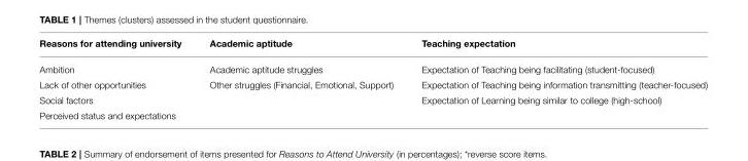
<table><thead><tr><td>Reasons for attending university</td><td>Academic aptitude</td><td>Teaching expectation</td></tr></thead><tbody><tr><td>Ambition</td><td>Academic aptitude struggles</td><td>Expectation of Teaching being facilitating (student-focused)</td></tr><tr><td>Lack of other opportunities</td><td>Other struggles (Financial, Emotional, Support)</td><td>Expectation of Teaching being information transmitting (teacher-focused)</td></tr><tr><td>Social factors</td><td></td><td>Expectation of Learning being similar to college (high-school)</td></tr><tr><td>Perceived status and expectations</td><td></td><td></td></tr></tbody></table>